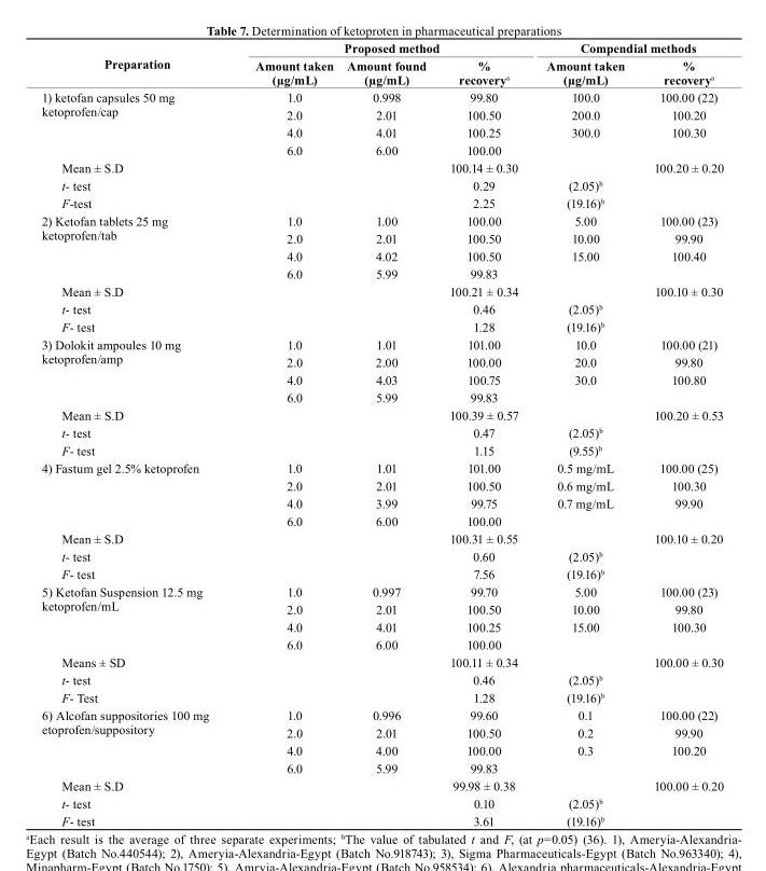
<table><thead><tr><td rowspan="2">Preparation</td><td colspan="3">Proposed method</td><td colspan="2">compendial methods</td></tr><tr><td>Amount taken (µg/mL)</td><td>Amount found (µg/mL)</td><td>% recovery<sup>a</sup></td><td>Amount taken (µg/mL)</td><td>% recovery<sup>a</sup></td></tr></thead><tbody><tr><td rowspan="4">1) ketofan capsules 50 mg ketoprofen/cap</td><td>1.0</td><td>0.998</td><td>99.80</td><td>100.0</td><td>100.00 (22)</td></tr><tr><td>2.0</td><td>2.01</td><td>100.50</td><td>200.0</td><td>100.20</td></tr><tr><td>4.0</td><td>4.01</td><td>100.25</td><td>300.0</td><td>100.30</td></tr><tr><td>6.0</td><td>6.00</td><td>100.00</td><td></td><td></td></tr><tr><td>Mean ± S.D</td><td></td><td></td><td>100.14 ± 0.30</td><td></td><td>100.20 ± 0.20</td></tr><tr><td>t- test</td><td></td><td></td><td>0.29</td><td>(2.05)<sup>b</sup></td><td></td></tr><tr><td>F-test</td><td></td><td></td><td>2.25</td><td>(19.16)<sup>b</sup></td><td></td></tr><tr><td rowspan="4">2) Ketofan tablets 25 mg ketoprofen/tab</td><td>1.0</td><td>1.00</td><td>100.00</td><td>5.00</td><td>100.00 (23)</td></tr><tr><td>2.0</td><td>2.01</td><td>100.50</td><td>10.00</td><td>99.90</td></tr><tr><td>4.0</td><td>4.02</td><td>100.50</td><td>15.00</td><td>100.40</td></tr><tr><td>6.0</td><td>5.99</td><td>99.83</td><td></td><td></td></tr><tr><td>Mean ± S.D</td><td></td><td></td><td>100.21 ± 0.34</td><td></td><td>100.10 ± 0.30</td></tr><tr><td>t- test</td><td></td><td></td><td>0.46</td><td>(2.05)<sup>b</sup></td><td></td></tr><tr><td>F- test</td><td></td><td></td><td>1.28</td><td>(19.16)<sup>b</sup></td><td></td></tr><tr><td rowspan="4">3) Dolokit ampoules 10 mg ketoprofen/amp</td><td>1.0</td><td>1.01</td><td>101.00</td><td>10.0</td><td>100.00 (21)</td></tr><tr><td>2.0</td><td>2.00</td><td>100.00</td><td>20.0</td><td>99.80</td></tr><tr><td>4.0</td><td>4.03</td><td>100.75</td><td>30.0</td><td>100.80</td></tr><tr><td>6.0</td><td>5.99</td><td>99.83</td><td></td><td></td></tr><tr><td>Mean ± S.D</td><td></td><td></td><td>100.39 ± 0.57</td><td></td><td>100.20 ± 0.53</td></tr><tr><td>t- test</td><td></td><td></td><td>0.47</td><td>(2.05)<sup>b</sup></td><td></td></tr><tr><td>F- test</td><td></td><td></td><td>1.15</td><td>(9.55)<sup>b</sup></td><td></td></tr><tr><td rowspan="4">4) Fastum gel 2.5% ketoprofen</td><td>1.0</td><td>1.01</td><td>101.00</td><td>0.5 mg/mL</td><td>100.00 (25)</td></tr><tr><td>2.0</td><td>2.01</td><td>100.50</td><td>0.6 mg/mL</td><td>100.30</td></tr><tr><td>4.0</td><td>3.99</td><td>99.75</td><td>0.7 mg/mL</td><td>99.90</td></tr><tr><td>6.0</td><td>6.00</td><td>100.00</td><td></td><td></td></tr><tr><td>Mean ± S.D</td><td></td><td></td><td>100.31 ± 0.55</td><td></td><td>100.10 ± 0.20</td></tr><tr><td>t- test</td><td></td><td></td><td>0.60</td><td>(2.05)<sup>b</sup></td><td></td></tr><tr><td>F- test</td><td></td><td></td><td>7.56</td><td>(19.16)<sup>b</sup></td><td></td></tr><tr><td rowspan="4">5) Ketofan Suspension 12.5 mg ketoprofen/mL</td><td>1.0</td><td>0.997</td><td>99.70</td><td>5.00</td><td>100.00 (23)</td></tr><tr><td>2.0</td><td>2.01</td><td>100.50</td><td>10.00</td><td>99.80</td></tr><tr><td>4.0</td><td>4.01</td><td>100.25</td><td>15.00</td><td>100.30</td></tr><tr><td>6.0</td><td>6.00</td><td>100.00</td><td></td><td></td></tr><tr><td>Means ± SD</td><td></td><td></td><td>100.11 ± 0.34</td><td></td><td>100.00 ± 0.30</td></tr><tr><td>t- test</td><td></td><td></td><td>0.46</td><td>(2.05)<sup>b</sup></td><td></td></tr><tr><td>F- Test</td><td></td><td></td><td>1.28</td><td>(19.16)<sup>b</sup></td><td></td></tr><tr><td rowspan="4">6) Alcofan suppositories 100 mg etoprofen/suppository</td><td>1.0</td><td>0.996</td><td>99.60</td><td>0.1</td><td>100.00 (22)</td></tr><tr><td>2.0</td><td>2.01</td><td>100.50</td><td>0.2</td><td>99.90</td></tr><tr><td>4.0</td><td>4.00</td><td>100.00</td><td>0.3</td><td>100.20</td></tr><tr><td>6.0</td><td>5.99</td><td>99.83</td><td></td><td></td></tr><tr><td>Mean ± S.D</td><td></td><td></td><td>99.98 ± 0.38</td><td></td><td>100.00 ± 0.20</td></tr><tr><td>t- test</td><td></td><td></td><td>0.10</td><td>(2.05)<sup>b</sup></td><td></td></tr><tr><td>F- test</td><td></td><td></td><td>3.61</td><td>(19.16)<sup>b</sup></td><td></td></tr></tbody></table>